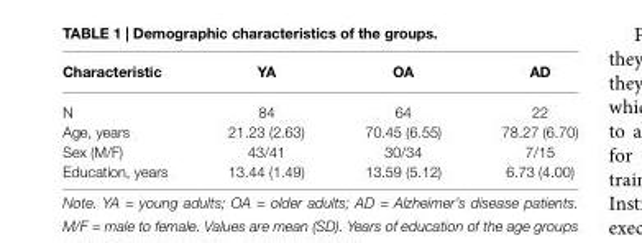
<table><thead><tr><td>Characteristic</td><td>YA</td><td>OA</td><td>AD</td></tr></thead><tbody><tr><td>N</td><td>84</td><td>64</td><td>22</td></tr><tr><td>Age, years</td><td>21.23 (2.63)</td><td>70.45 (6.55)</td><td>78.27 (6.70)</td></tr><tr><td>Sex (M/F)</td><td>43/41</td><td>30/34</td><td>7/15</td></tr><tr><td>Education, years</td><td>13.44 (1.49)</td><td>13.59 (5.12)</td><td>6.73 (4.00)</td></tr></tbody></table>